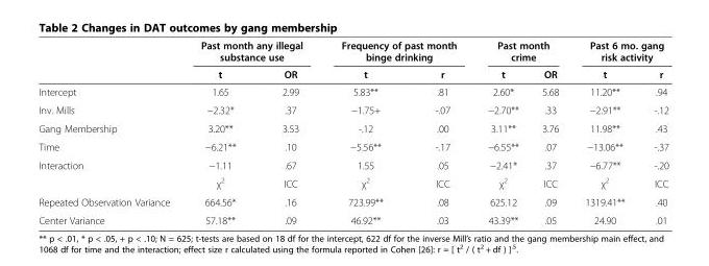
<table><thead><tr><td rowspan="2"></td><td colspan="2">Past month any illegal substance use</td><td colspan="2">Frequency of past month binge drinking</td><td colspan="2">Past month crime</td><td colspan="2">Past 6 mo. gang risk activity</td></tr><tr><td>t</td><td>OR</td><td>t</td><td>r</td><td>t</td><td>OR</td><td>t</td><td>r</td></tr></thead><tbody><tr><td>Intercept</td><td>1.65</td><td>2.99</td><td>5.83**</td><td>.81</td><td>2.60*</td><td>5.68</td><td>11.20**</td><td>.94</td></tr><tr><td>Inv. Mills</td><td>−2.32*</td><td>.37</td><td>−1.75+</td><td>-.07</td><td>−2.70**</td><td>.33</td><td>−2.91**</td><td>-.12</td></tr><tr><td>Gang Membership</td><td>3.20**</td><td>3.53</td><td>-.12</td><td>.00</td><td>3.11**</td><td>3.76</td><td>11.98**</td><td>.43</td></tr><tr><td>Time</td><td>−6.21**</td><td>.10</td><td>−5.56**</td><td>-.17</td><td>−6.55**</td><td>.07</td><td>−13.06**</td><td>-.37</td></tr><tr><td rowspan="2">Interaction</td><td>−1.11</td><td>.67</td><td>1.55</td><td>.05</td><td>−2.41*</td><td>.37</td><td>−6.77**</td><td>-.20</td></tr><tr><td>χ<sup>2</sup></td><td>ICC</td><td>χ<sup>2</sup></td><td>ICC</td><td>χ<sup>2</sup></td><td>ICC</td><td>χ<sup>2</sup></td><td>ICC</td></tr><tr><td>Repeated Observation Variance</td><td>664.56*</td><td>.16</td><td>723.99**</td><td>.08</td><td>625.12</td><td>.09</td><td>1319.41**</td><td>.40</td></tr><tr><td>Center Variance</td><td>57.18**</td><td>.09</td><td>46.92**</td><td>.03</td><td>43.39**</td><td>.05</td><td>24.90</td><td>.01</td></tr></tbody></table>